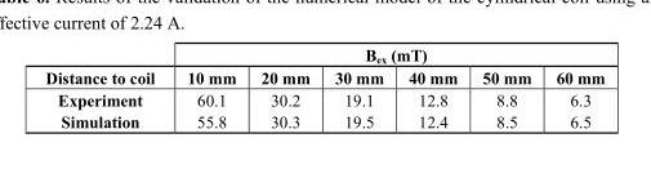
<table><thead><tr><td rowspan="2">Distance to coil</td><td colspan="6">B<sub>ex</sub> (mT)</td></tr><tr><td>10 mm</td><td>20 mm</td><td>30 mm</td><td>40 mm</td><td>50 mm</td><td>60 mm</td></tr></thead><tbody><tr><td>Experiment</td><td>60.1</td><td>30.2</td><td>19.1</td><td>12.8</td><td>8.8</td><td>6.3</td></tr><tr><td>Simulation</td><td>55.8</td><td>30.3</td><td>19.5</td><td>12.4</td><td>8.5</td><td>6.5</td></tr></tbody></table>